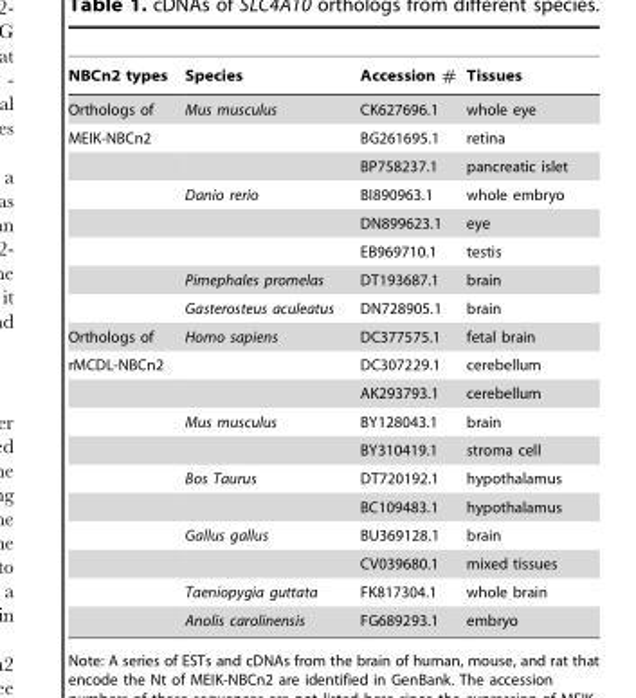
<table><thead><tr><td>NBCn2 types</td><td>Species</td><td>Accession #</td><td>Tissues</td></tr></thead><tbody><tr><td>Orthologs of</td><td>Mus musculus</td><td>CK627696.1</td><td>whole eye</td></tr><tr><td rowspan="7">MEIK-NBCn2</td><td></td><td>BG261695.1</td><td>retina</td></tr><tr><td></td><td>BP758237.1</td><td>pancreatic islet</td></tr><tr><td>Danio rerio</td><td>BI890963.1</td><td>whole embryo</td></tr><tr><td></td><td>DN899623.1</td><td>eye</td></tr><tr><td></td><td>EB969710.1</td><td>testis</td></tr><tr><td>Pimephales promelas</td><td>DT193687.1</td><td>brain</td></tr><tr><td>Gasterosteus aculeatus</td><td>DN728905.1</td><td>brain</td></tr><tr><td>Orthologs of</td><td>Homo sapiens</td><td>DC377575.1</td><td>fetal brain</td></tr><tr><td rowspan="10">rMCDL-NBCn2</td><td></td><td>DC307229.1</td><td>cerebellum</td></tr><tr><td></td><td>AK293793.1</td><td>cerebellum</td></tr><tr><td>Mus musculus</td><td>BY128043.1</td><td>brain</td></tr><tr><td></td><td>BY310419.1</td><td>stroma cell</td></tr><tr><td>Bos Taurus</td><td>DT720192.1</td><td>hypothalamus</td></tr><tr><td></td><td>BC109483.1</td><td>hypothalamus</td></tr><tr><td>Gallus gallus</td><td>BU369128.1</td><td>brain</td></tr><tr><td></td><td>CV039680.1</td><td>mixed tissues</td></tr><tr><td>Taeniopygia guttata</td><td>FK817304.1</td><td>whole brain</td></tr><tr><td>Anolis carolinensis</td><td>FG689293.1</td><td>embryo</td></tr></tbody></table>